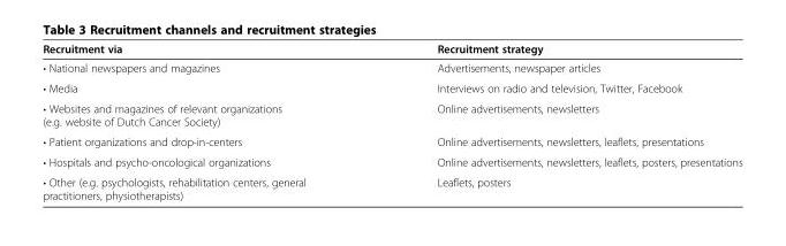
<table><thead><tr><td>Recruitment via</td><td>Recruitment strategy</td></tr></thead><tbody><tr><td>• National newspapers and magazines</td><td>Advertisements, newspaper articles</td></tr><tr><td>• Media</td><td>Interviews on radio and television, Twitter, Facebook</td></tr><tr><td>• Websites and magazines of relevant organizations (e.g. website of Dutch Cancer Society)</td><td>Online advertisements, newsletters</td></tr><tr><td>• Patient organizations and drop-in-centers</td><td>Online advertisements, newsletters, leaflets, presentations</td></tr><tr><td>• Hospitals and psycho-oncological organizations</td><td>Online advertisements, newsletters, leaflets, posters, presentations</td></tr><tr><td>• Other (e.g. psychologists, rehabilitation centers, general practitioners, physiotherapists)</td><td>Leaflets, posters</td></tr></tbody></table>